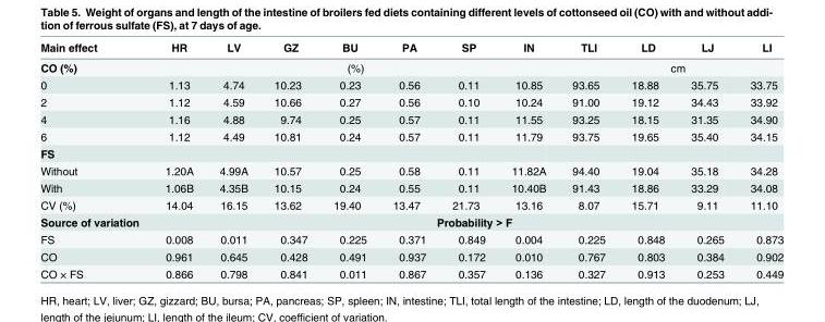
<table><thead><tr><td>Main effect</td><td>HR</td><td>LV</td><td>GZ</td><td>BU</td><td>PA</td><td>SP</td><td>IN</td><td>TLI</td><td>LD</td><td>LJ</td><td>LI</td></tr></thead><tbody><tr><td>CO (%)</td><td colspan="7">(%)</td><td colspan="4">cm</td></tr><tr><td>0</td><td>1.13</td><td>4.74</td><td>10.23</td><td>0.23</td><td>0.56</td><td>0.11</td><td>10.85</td><td>93.65</td><td>18.88</td><td>35.75</td><td>33.75</td></tr><tr><td>2</td><td>1.12</td><td>4.59</td><td>10.66</td><td>0.27</td><td>0.56</td><td>0.10</td><td>10.24</td><td>91.00</td><td>19.12</td><td>34.43</td><td>33.92</td></tr><tr><td>4</td><td>1.16</td><td>4.88</td><td>9.74</td><td>0.25</td><td>0.57</td><td>0.11</td><td>11.55</td><td>93.25</td><td>18.15</td><td>31.35</td><td>34.90</td></tr><tr><td>6</td><td>1.12</td><td>4.49</td><td>10.81</td><td>0.24</td><td>0.57</td><td>0.11</td><td>11.79</td><td>93.75</td><td>19.65</td><td>35.40</td><td>34.15</td></tr><tr><td colspan="12">FS</td></tr><tr><td>Without</td><td>1.20A</td><td>4.99A</td><td>10.57</td><td>0.25</td><td>0.58</td><td>0.11</td><td>11.82A</td><td>94.40</td><td>19.04</td><td>35.18</td><td>34.28</td></tr><tr><td>With</td><td>1.06B</td><td>4.35B</td><td>10.15</td><td>0.24</td><td>0.55</td><td>0.11</td><td>10.40B</td><td>91.43</td><td>18.86</td><td>33.29</td><td>34.08</td></tr><tr><td>CV (%)</td><td>14.04</td><td>16.15</td><td>13.62</td><td>19.40</td><td>13.47</td><td>21.73</td><td>13.16</td><td>8.07</td><td>15.71</td><td>9.11</td><td>11.10</td></tr><tr><td>Source of variation</td><td colspan="11">Probability &gt; F</td></tr><tr><td>FS</td><td>0.008</td><td>0.011</td><td>0.347</td><td>0.225</td><td>0.371</td><td>0.849</td><td>0.004</td><td>0.225</td><td>0.848</td><td>0.265</td><td>0.873</td></tr><tr><td>CO</td><td>0.961</td><td>0.645</td><td>0.428</td><td>0.491</td><td>0.937</td><td>0.172</td><td>0.010</td><td>0.767</td><td>0.803</td><td>0.384</td><td>0.902</td></tr><tr><td>CO × FS</td><td>0.866</td><td>0.798</td><td>0.841</td><td>0.011</td><td>0.867</td><td>0.357</td><td>0.136</td><td>0.327</td><td>0.913</td><td>0.253</td><td>0.449</td></tr></tbody></table>